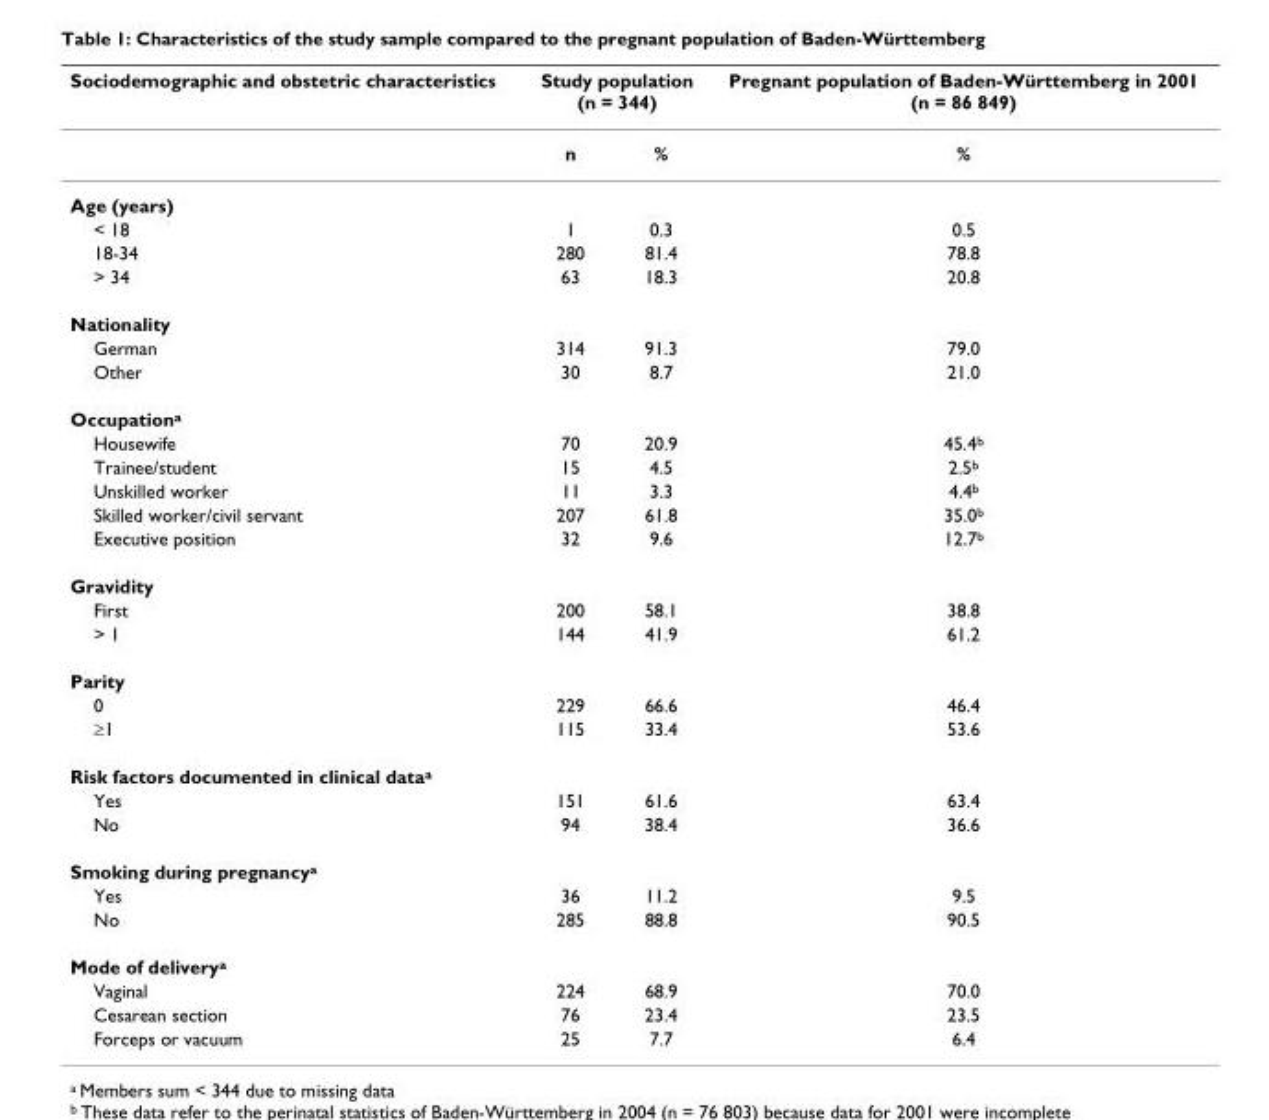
<table><thead><tr><td rowspan="2">Sociodemographic and obstetric characteristics</td><td colspan="2">Study population (n = 344)</td><td rowspan="2">Pregnant population of Baden-Württemberg in 2001 (n = 86 849) %</td></tr><tr><td>n</td><td>%</td></tr></thead><tbody><tr><td colspan="4">Age (years)</td></tr><tr><td>&lt; 18</td><td>1</td><td>0.3</td><td>0.5</td></tr><tr><td>18-34</td><td>280</td><td>81.4</td><td>78.8</td></tr><tr><td>&gt; 34</td><td>63</td><td>18.3</td><td>20.8</td></tr><tr><td colspan="4">Nationality</td></tr><tr><td>German</td><td>314</td><td>91.3</td><td>79.0</td></tr><tr><td>Other</td><td>30</td><td>8.7</td><td>21.0</td></tr><tr><td colspan="4">Occupation<sup>a</sup></td></tr><tr><td>Housewife</td><td>70</td><td>20.9</td><td>45.4<sup>b</sup></td></tr><tr><td>Trainee/student</td><td>15</td><td>4.5</td><td>2.5<sup>b</sup></td></tr><tr><td>Unskilled worker</td><td>11</td><td>3.3</td><td>4.4<sup>b</sup></td></tr><tr><td>Skilled worker/civil servant</td><td>207</td><td>61.8</td><td>35.0<sup>b</sup></td></tr><tr><td>Executive position</td><td>32</td><td>9.6</td><td>12.7<sup>b</sup></td></tr><tr><td colspan="4">Gravidity</td></tr><tr><td>First</td><td>200</td><td>58.1</td><td>38.8</td></tr><tr><td>&gt; 1</td><td>144</td><td>41.9</td><td>61.2</td></tr><tr><td colspan="4">Parity</td></tr><tr><td>0</td><td>229</td><td>66.6</td><td>46.4</td></tr><tr><td>≥1</td><td>115</td><td>33.4</td><td>53.6</td></tr><tr><td colspan="4">Risk factors documented in clinical data<sup>a</sup></td></tr><tr><td>Yes</td><td>151</td><td>61.6</td><td>63.4</td></tr><tr><td>No</td><td>94</td><td>38.4</td><td>36.6</td></tr><tr><td colspan="4">Smoking during pregnancy<sup>a</sup></td></tr><tr><td>Yes</td><td>36</td><td>11.2</td><td>9.5</td></tr><tr><td>No</td><td>285</td><td>88.8</td><td>90.5</td></tr><tr><td colspan="4">Mode of delivery<sup>a</sup></td></tr><tr><td>Vaginal</td><td>224</td><td>68.9</td><td>70.0</td></tr><tr><td>Cesarean section</td><td>76</td><td>23.4</td><td>23.5</td></tr><tr><td>Forceps or vacuum</td><td>25</td><td>7.7</td><td>6.4</td></tr></tbody></table>